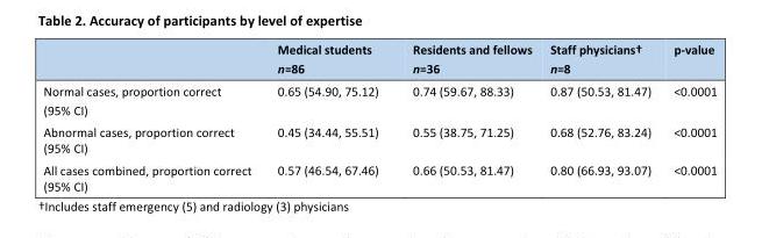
<table><thead><tr><td></td><td>Medical students n=86</td><td>Residents and fellows n=36</td><td>Staff physicians† n=8</td><td>p-value</td></tr></thead><tbody><tr><td>Normal cases, proportion correct (95% CI)</td><td>0.65 (54.90, 75.12)</td><td>0.74 (59.67, 88.33)</td><td>0.87 (50.53, 81.47)</td><td>&lt;0.0001</td></tr><tr><td>Abnormal cases, proportion correct (95% CI)</td><td>0.45 (34.44, 55.51)</td><td>0.55 (38.75, 71.25)</td><td>0.68 (52.76, 83.24)</td><td>&lt;0.0001</td></tr><tr><td>All cases combined, proportion correct (95% CI)</td><td>0.57 (46.54, 67.46)</td><td>0.66 (50.53, 81.47)</td><td>0.80 (66.93, 93.07)</td><td>&lt;0.0001</td></tr></tbody></table>